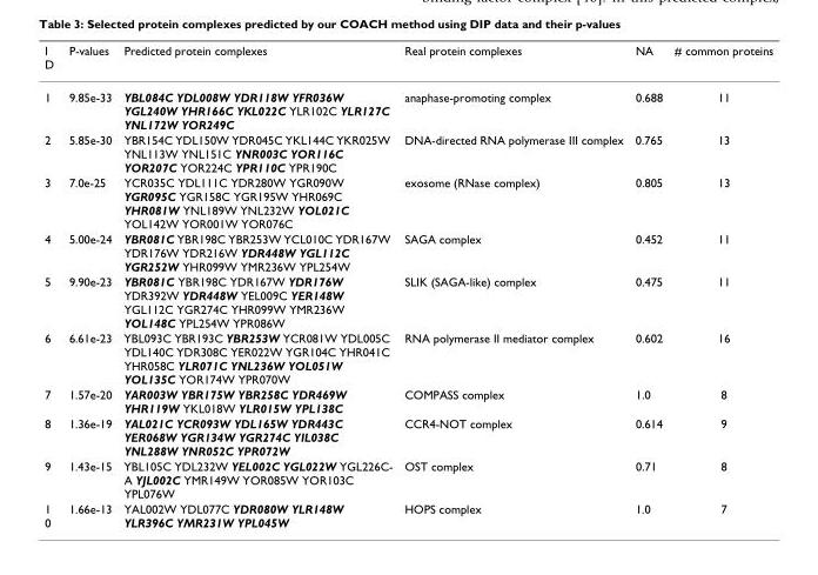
<table><thead><tr><td>I D</td><td>P-values</td><td>Predicted protein complexes</td><td>Real protein complexes</td><td>NA</td><td># common proteins</td></tr></thead><tbody><tr><td>1</td><td>9.85e-33</td><td>YBL084C YDL008W YDR118W YFR036W YGL240W YHR166C YKL022C YLR102C YLR127C YNL172W YOR249C</td><td>anaphase-promoting complex</td><td>0.688</td><td>11</td></tr><tr><td>2</td><td>5.85e-30</td><td>YBR154C YDL150W YDR045C YKL144C YKR025W YNL113W YNL151C YNR003C YOR116C YOR207C YOR224C YPR110C YPR190C</td><td>DNA-directed RNA polymerase III complex</td><td>0.765</td><td>13</td></tr><tr><td>3</td><td>7.0e-25</td><td>YCR035C YDL111C YDR280W YGR090W YGR095C YGR158C YGR195W YHR069C YHR081W YNL189W YNL232W YOL021C YOL142W YOR001W YOR076C</td><td>exosome (RNase complex)</td><td>0.805</td><td>13</td></tr><tr><td>4</td><td>5.00e-24</td><td>YBR081C YBR198C YBR253W YCL010C YDR167W YDR176W YDR216W YDR448W YGL112C YGR252W YHR099W YMR236W YPL254W</td><td>SAGA complex</td><td>0.452</td><td>11</td></tr><tr><td>5</td><td>9.90e-23</td><td>YBR081C YBR198C YDR167W YDR176W YDR392W YDR448W YEL009C YER148W YGL112C YGR274C YHR099W YMR236W YOL148C YPL254W YPR086W</td><td>SLIK (SAGA-like) complex</td><td>0.475</td><td>11</td></tr><tr><td>6</td><td>6.61e-23</td><td>YBL093C YBR193C YBR253W YCR081W YDL005C YDL140C YDR308C YER022W YGR104C YHR041C YHR058C YLR071C YNL236W YOL051W YOL135C YOR174W YPR070W</td><td>RNA polymerase II mediator complex</td><td>0.602</td><td>16</td></tr><tr><td>7</td><td>1.57e-20</td><td>YAR003W YBR175W YBR258C YDR469W YHR119W YKL018W YLR015W YPL138C</td><td>COMPASS complex</td><td>1.0</td><td>8</td></tr><tr><td>8</td><td>1.36e-19</td><td>YAL021C YCR093W YDL165W YDR443C YER068W YGR134W YGR274C YIL038C YNL288W YNR052C YPR072W</td><td>CCR4-NOT complex</td><td>0.614</td><td>9</td></tr><tr><td>9</td><td>1.43e-15</td><td>YBL105C YDL232W YEL002C YGL022W YGL226C- A YJL002C YMR149W YOR085W YOR103C YPL076W</td><td>OST complex</td><td>0.71</td><td>8</td></tr><tr><td>1 0</td><td>1.66e-13</td><td>YAL002W YDL077C YDR080W YLR148W YLR396C YMR231W YPL045W</td><td>HOPS complex</td><td>1.0</td><td>7</td></tr></tbody></table>